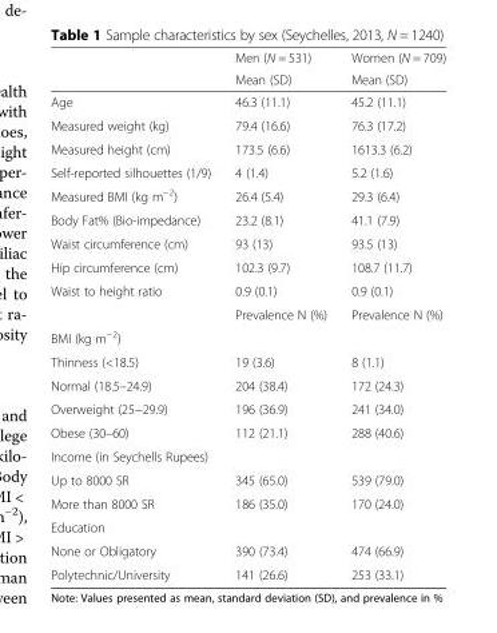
<table><thead><tr><td rowspan="2"></td><td rowspan="2">Men (N = 531) Mean (SD)</td><td rowspan="2">Women (N = 709) Mean (SD)</td></tr><tr></tr></thead><tbody><tr><td>Age</td><td>46.3 (11.1)</td><td>45.2 (11.1)</td></tr><tr><td>Measured weight (kg)</td><td>79.4 (16.6)</td><td>76.3 (17.2)</td></tr><tr><td>Measured height (cm)</td><td>173.5 (6.6)</td><td>1613.3 (6.2)</td></tr><tr><td>Self-reported silhouettes (1/9)</td><td>4 (1.4)</td><td>5.2 (1.6)</td></tr><tr><td>Measured BMI (kg m<sup>−2</sup>)</td><td>26.4 (5.4)</td><td>29.3 (6.4)</td></tr><tr><td>Body Fat% (Bio-impedance)</td><td>23.2 (8.1)</td><td>41.1 (7.9)</td></tr><tr><td>Waist circumference (cm)</td><td>93 (13)</td><td>93.5 (13)</td></tr><tr><td>Hip circumference (cm)</td><td>102.3 (9.7)</td><td>108.7 (11.7)</td></tr><tr><td rowspan="2">Waist to height ratio</td><td>0.9 (0.1)</td><td>0.9 (0.1)</td></tr><tr><td>Prevalence N (%)</td><td>Prevalence N (%)</td></tr><tr><td colspan="3">BMI (kg m<sup>−2</sup>)</td></tr><tr><td>Thinness (&lt;18.5)</td><td>19 (3.6)</td><td>8 (1.1)</td></tr><tr><td>Normal (18.5–24.9)</td><td>204 (38.4)</td><td>172 (24.3)</td></tr><tr><td>Overweight (25−29.9)</td><td>196 (36.9)</td><td>241 (34.0)</td></tr><tr><td>Obese (30–60)</td><td>112 (21.1)</td><td>288 (40.6)</td></tr><tr><td colspan="3">Income (in Seychells Rupees)</td></tr><tr><td>Up to 8000 SR</td><td>345 (65.0)</td><td>539 (79.0)</td></tr><tr><td>More than 8000 SR</td><td>186 (35.0)</td><td>170 (24.0)</td></tr><tr><td colspan="3">Education</td></tr><tr><td>None or Obligatory</td><td>390 (73.4)</td><td>474 (66.9)</td></tr><tr><td>Polytechnic/University</td><td>141 (26.6)</td><td>253 (33.1)</td></tr></tbody></table>